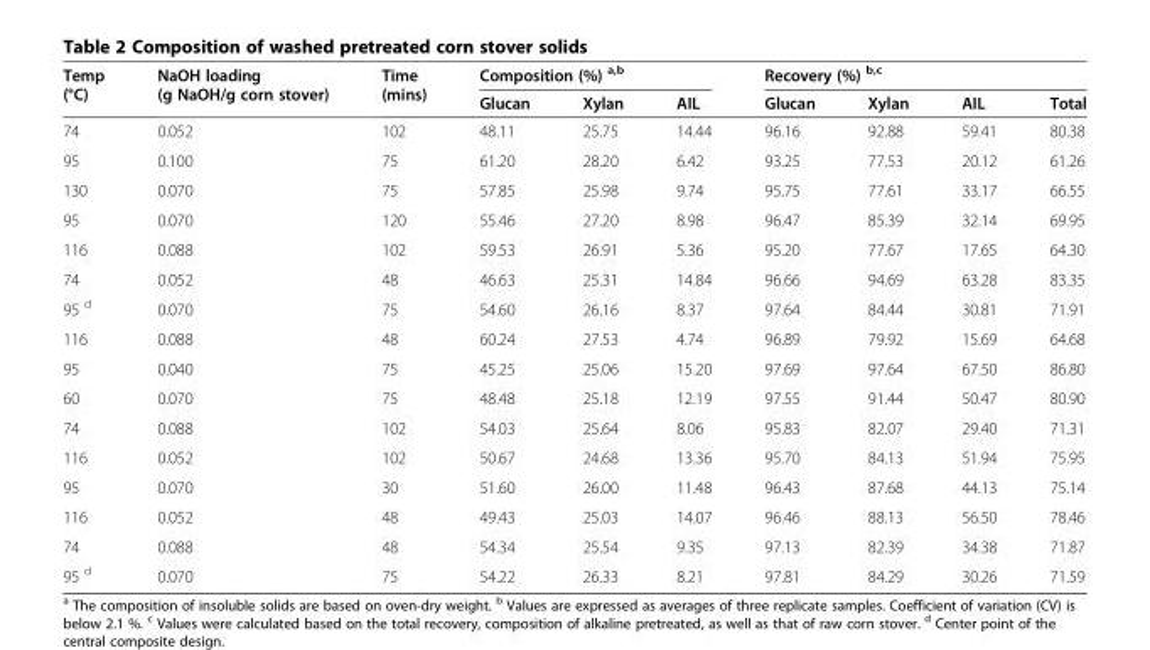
<table><thead><tr><td rowspan="2">Temp (°C)</td><td rowspan="2">NaOH loading (g NaOH/g corn stover)</td><td rowspan="2">Time (mins)</td><td colspan="3">Composition (%) <sup>a,b</sup></td><td colspan="4">Recovery (%) <sup>b,c</sup></td></tr><tr><td>Glucan</td><td>Xylan</td><td>AIL</td><td>Glucan</td><td>Xylan</td><td>AIL</td><td>Total</td></tr></thead><tbody><tr><td>74</td><td>0.052</td><td>102</td><td>48.11</td><td>25.75</td><td>14.44</td><td>96.16</td><td>92.88</td><td>59.41</td><td>80.38</td></tr><tr><td>95</td><td>0.100</td><td>75</td><td>61.20</td><td>28.20</td><td>6.42</td><td>93.25</td><td>77.53</td><td>20.12</td><td>61.26</td></tr><tr><td>130</td><td>0.070</td><td>75</td><td>57.85</td><td>25.98</td><td>9.74</td><td>95.75</td><td>77.61</td><td>33.17</td><td>66.55</td></tr><tr><td>95</td><td>0.070</td><td>120</td><td>55.46</td><td>27.20</td><td>8.98</td><td>96.47</td><td>85.39</td><td>32.14</td><td>69.95</td></tr><tr><td>116</td><td>0.088</td><td>102</td><td>59.53</td><td>26.91</td><td>5.36</td><td>95.20</td><td>77.67</td><td>17.65</td><td>64.30</td></tr><tr><td>74</td><td>0.052</td><td>48</td><td>46.63</td><td>25.31</td><td>14.84</td><td>96.66</td><td>94.69</td><td>63.28</td><td>83.35</td></tr><tr><td>95 <sup>d</sup></td><td>0.070</td><td>75</td><td>54.60</td><td>26.16</td><td>8.37</td><td>97.64</td><td>84.44</td><td>30.81</td><td>71.91</td></tr><tr><td>116</td><td>0.088</td><td>48</td><td>60.24</td><td>27.53</td><td>4.74</td><td>96.89</td><td>79.92</td><td>15.69</td><td>64.68</td></tr><tr><td>95</td><td>0.040</td><td>75</td><td>45.25</td><td>25.06</td><td>15.20</td><td>97.69</td><td>97.64</td><td>67.50</td><td>86.80</td></tr><tr><td>60</td><td>0.070</td><td>75</td><td>48.48</td><td>25.18</td><td>12.19</td><td>97.55</td><td>91.44</td><td>50.47</td><td>80.90</td></tr><tr><td>74</td><td>0.088</td><td>102</td><td>54.03</td><td>25.64</td><td>8.06</td><td>95.83</td><td>82.07</td><td>29.40</td><td>71.31</td></tr><tr><td>116</td><td>0.052</td><td>102</td><td>50.67</td><td>24.68</td><td>13.36</td><td>95.70</td><td>84.13</td><td>51.94</td><td>75.95</td></tr><tr><td>95</td><td>0.070</td><td>30</td><td>51.60</td><td>26.00</td><td>11.48</td><td>96.43</td><td>87.68</td><td>44.13</td><td>75.14</td></tr><tr><td>116</td><td>0.052</td><td>48</td><td>49.43</td><td>25.03</td><td>14.07</td><td>96.46</td><td>88.13</td><td>56.50</td><td>78.46</td></tr><tr><td>74</td><td>0.088</td><td>48</td><td>54.34</td><td>25.54</td><td>9.35</td><td>97.13</td><td>82.39</td><td>34.38</td><td>71.87</td></tr><tr><td>95 <sup>d</sup></td><td>0.070</td><td>75</td><td>54.22</td><td>26.33</td><td>8.21</td><td>97.81</td><td>84.29</td><td>30.26</td><td>71.59</td></tr></tbody></table>